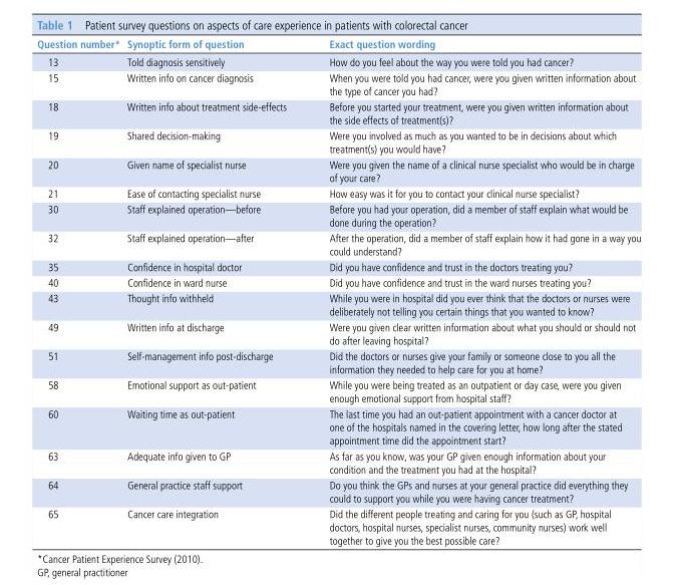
<table><thead><tr><td>Question number*</td><td>synoptic form of question</td><td>exact question wording</td></tr></thead><tbody><tr><td>13</td><td>Told diagnosis sensitively</td><td>How do you feel about the way you were told you had cancer?</td></tr><tr><td>15</td><td>Written info on cancer diagnosis</td><td>When you were told you had cancer, were you given written information about the type of cancer you had?</td></tr><tr><td>18</td><td>Written info about treatment side-effects</td><td>Before you started your treatment, were you given written information about the side effects of treatment(s)?</td></tr><tr><td>19</td><td>Shared decision-making</td><td>Were you involved as much as you wanted to be in decisions about which treatment(s) you would have?</td></tr><tr><td>20</td><td>Given name of specialist nurse</td><td>Were you given the name of a clinical nurse specialist who would be in charge of your care?</td></tr><tr><td>21</td><td>Ease of contacting specialist nurse</td><td>How easy was it for you to contact your clinical nurse specialist?</td></tr><tr><td>30</td><td>Staff explained operation—before</td><td>Before you had your operation, did a member of staff explain what would be done during the operation?</td></tr><tr><td>32</td><td>Staff explained operation—after</td><td>After the operation, did a member of staff explain how it had gone in a way you could understand?</td></tr><tr><td>35</td><td>Confidence in hospital doctor</td><td>Did you have confidence and trust in the doctors treating you?</td></tr><tr><td>40</td><td>Confidence in ward nurse</td><td>Did you have confidence and trust in the ward nurses treating you?</td></tr><tr><td>43</td><td>Thought info withheld</td><td>While you were in hospital did you ever think that the doctors or nurses were deliberately not telling you certain things that you wanted to know?</td></tr><tr><td>49</td><td>Written info at discharge</td><td>Were you given clear written information about what you should or should not do after leaving hospital?</td></tr><tr><td>51</td><td>Self-management info post-discharge</td><td>Did the doctors or nurses give your family or someone close to you all the information they needed to help care for you at home?</td></tr><tr><td>58</td><td>Emotional support as out-patient</td><td>While you were being treated as an outpatient or day case, were you given enough emotional support from hospital staff?</td></tr><tr><td>60</td><td>Waiting time as out-patient</td><td>The last time you had an out-patient appointment with a cancer doctor at one of the hospitals named in the covering letter, how long after the stated appointment time did the appointment start?</td></tr><tr><td>63</td><td>Adequate info given to GP</td><td>As far as you know, was your GP given enough information about your condition and the treatment you had at the hospital?</td></tr><tr><td>64</td><td>General practice staff support</td><td>Do you think the GPs and nurses at your general practice did everything they could to support you while you were having cancer treatment?</td></tr><tr><td>65</td><td>Cancer care integration</td><td>Did the different people treating and caring for you (such as GP, hospital doctors, hospital nurses, specialist nurses, community nurses) work well together to give you the best possible care?</td></tr></tbody></table>